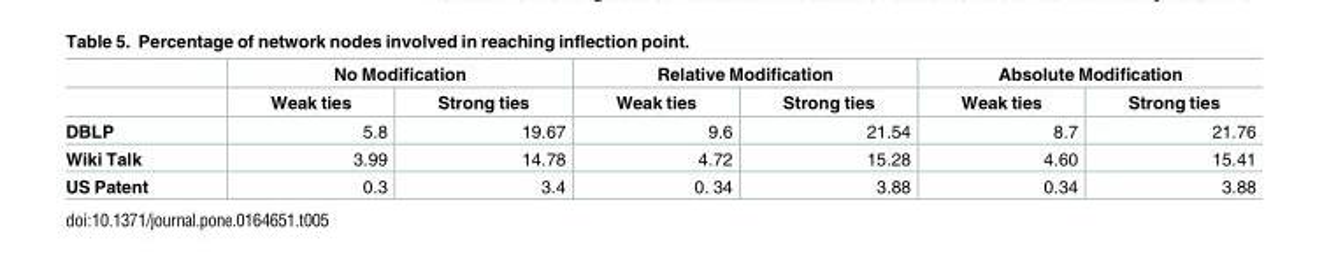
<table><thead><tr><td rowspan="2"></td><td colspan="2">No Modification</td><td colspan="2">Relative Modification</td><td colspan="2">Absolute Modification</td></tr><tr><td>Weak ties</td><td>Strong ties</td><td>Weak ties</td><td>Strong ties</td><td>Weak ties</td><td>Strong ties</td></tr></thead><tbody><tr><td>DBLP</td><td>5.8</td><td>19.67</td><td>9.6</td><td>21.54</td><td>8.7</td><td>21.76</td></tr><tr><td>Wiki Talk</td><td>3.99</td><td>14.78</td><td>4.72</td><td>15.28</td><td>4.60</td><td>15.41</td></tr><tr><td>US Patent</td><td>0.3</td><td>3.4</td><td>0. 34</td><td>3.88</td><td>0.34</td><td>3.88</td></tr></tbody></table>